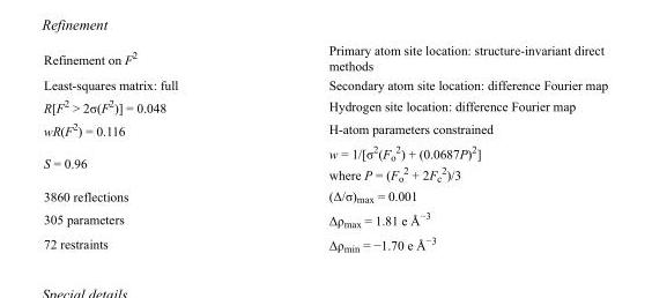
<table><tbody><tr><td>Refinement on F<sup>2</sup></td><td>Primary atom site location: structure-invariant direct methods</td></tr><tr><td>Least-squares matrix: full</td><td>Secondary atom site location: difference Fourier map</td></tr><tr><td>R[F<sup>2</sup> &gt; 2σ(F<sup>2</sup>)] = 0.048</td><td>Hydrogen site location: difference Fourier map</td></tr><tr><td>wR(F<sup>2</sup>) = 0.116</td><td>H-atom parameters constrained</td></tr><tr><td>S = 0.96</td><td>w = 1/[σ<sup>2</sup>(F<sub>o</sub> <sup>2</sup>) + (0.0687P)<sup>2</sup>] where P = (F<sub>o</sub> <sup>2</sup> + 2F<sub>c</sub> <sup>2</sup>)/3</td></tr><tr><td>3860 reflections</td><td>(Δ/σ)<sub>max</sub> = 0.001</td></tr><tr><td>305 parameters</td><td>Δρ<sub>max</sub> = 1.81 e Å<sup>−3</sup></td></tr><tr><td>72 restraints</td><td>Δρ<sub>min</sub> = −1.70 e Å<sup>−3</sup></td></tr></tbody></table>